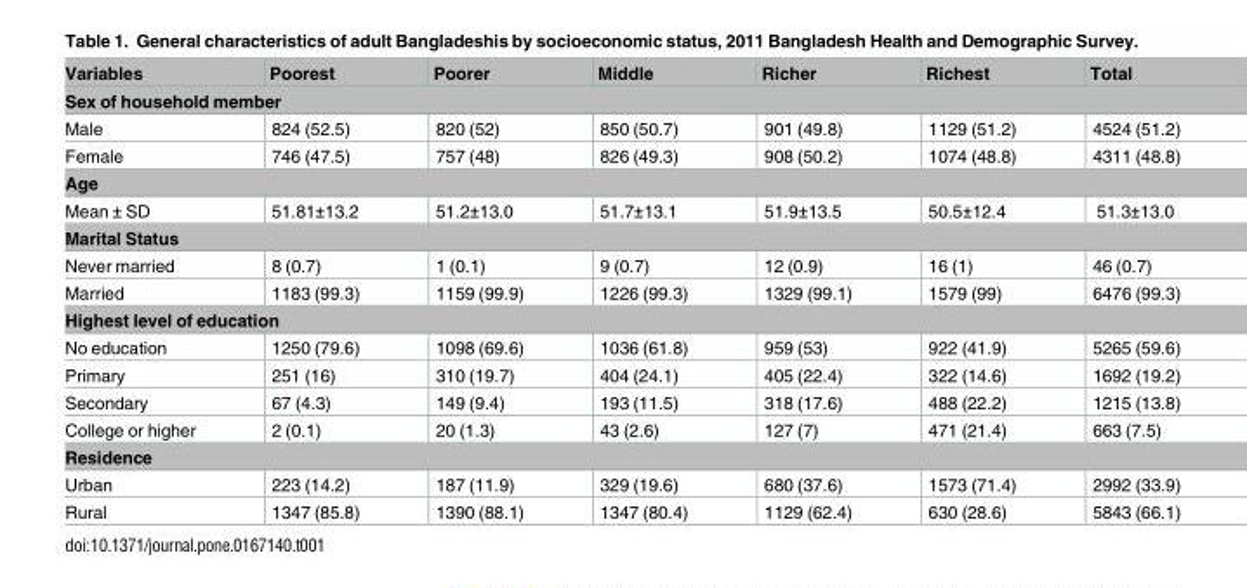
<table><thead><tr><td>Variables</td><td>Poorest</td><td>Poorer</td><td>Middle</td><td>Richer</td><td>Richest</td><td>Total</td></tr></thead><tbody><tr><td colspan="7">Sex of household member</td></tr><tr><td>Male</td><td>824 (52.5)</td><td>820 (52)</td><td>850 (50.7)</td><td>901 (49.8)</td><td>1129 (51.2)</td><td>4524 (51.2)</td></tr><tr><td>Female</td><td>746 (47.5)</td><td>757 (48)</td><td>826 (49.3)</td><td>908 (50.2)</td><td>1074 (48.8)</td><td>4311 (48.8)</td></tr><tr><td colspan="7">Age</td></tr><tr><td>Mean ± SD</td><td>51.81±13.2</td><td>51.2±13.0</td><td>51.7±13.1</td><td>51.9±13.5</td><td>50.5±12.4</td><td>51.3±13.0</td></tr><tr><td colspan="7">Marital Status</td></tr><tr><td>Never married</td><td>8 (0.7)</td><td>1 (0.1)</td><td>9 (0.7)</td><td>12 (0.9)</td><td>16 (1)</td><td>46 (0.7)</td></tr><tr><td>Married</td><td>1183 (99.3)</td><td>1159 (99.9)</td><td>1226 (99.3)</td><td>1329 (99.1)</td><td>1579 (99)</td><td>6476 (99.3)</td></tr><tr><td colspan="7">Highest level of education</td></tr><tr><td>No education</td><td>1250 (79.6)</td><td>1098 (69.6)</td><td>1036 (61.8)</td><td>959 (53)</td><td>922 (41.9)</td><td>5265 (59.6)</td></tr><tr><td>Primary</td><td>251 (16)</td><td>310 (19.7)</td><td>404 (24.1)</td><td>405 (22.4)</td><td>322 (14.6)</td><td>1692 (19.2)</td></tr><tr><td>Secondary</td><td>67 (4.3)</td><td>149 (9.4)</td><td>193 (11.5)</td><td>318 (17.6)</td><td>488 (22.2)</td><td>1215 (13.8)</td></tr><tr><td>College or higher</td><td>2 (0.1)</td><td>20 (1.3)</td><td>43 (2.6)</td><td>127 (7)</td><td>471 (21.4)</td><td>663 (7.5)</td></tr><tr><td colspan="7">Residence</td></tr><tr><td>Urban</td><td>223 (14.2)</td><td>187 (11.9)</td><td>329 (19.6)</td><td>680 (37.6)</td><td>1573 (71.4)</td><td>2992 (33.9)</td></tr><tr><td>Rural</td><td>1347 (85.8)</td><td>1390 (88.1)</td><td>1347 (80.4)</td><td>1129 (62.4)</td><td>630 (28.6)</td><td>5843 (66.1)</td></tr></tbody></table>